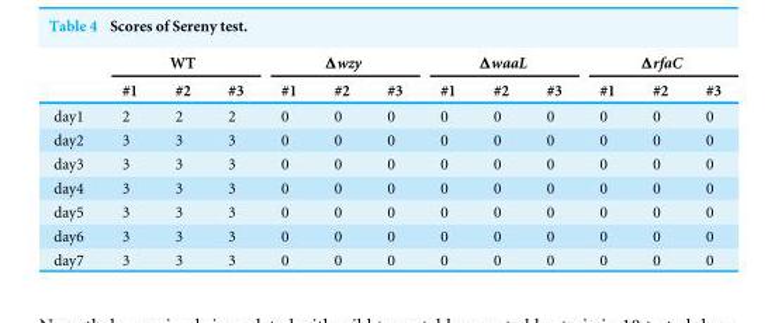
<table><thead><tr><td rowspan="2"></td><td colspan="3">WT</td><td colspan="3">Δwzy</td><td colspan="3">ΔwaaL</td><td colspan="3">ΔrfaC</td></tr><tr><td>#1</td><td>#2</td><td>#3</td><td>#1</td><td>#2</td><td>#3</td><td>#1</td><td>#2</td><td>#3</td><td>#1</td><td>#2</td><td>#3</td></tr></thead><tbody><tr><td>day1</td><td>2</td><td>2</td><td>2</td><td>0</td><td>0</td><td>0</td><td>0</td><td>0</td><td>0</td><td>0</td><td>0</td><td>0</td></tr><tr><td>day2</td><td>3</td><td>3</td><td>3</td><td>0</td><td>0</td><td>0</td><td>0</td><td>0</td><td>0</td><td>0</td><td>0</td><td>0</td></tr><tr><td>day3</td><td>3</td><td>3</td><td>3</td><td>0</td><td>0</td><td>0</td><td>0</td><td>0</td><td>0</td><td>0</td><td>0</td><td>0</td></tr><tr><td>day4</td><td>3</td><td>3</td><td>3</td><td>0</td><td>0</td><td>0</td><td>0</td><td>0</td><td>0</td><td>0</td><td>0</td><td>0</td></tr><tr><td>day5</td><td>3</td><td>3</td><td>3</td><td>0</td><td>0</td><td>0</td><td>0</td><td>0</td><td>0</td><td>0</td><td>0</td><td>0</td></tr><tr><td>day6</td><td>3</td><td>3</td><td>3</td><td>0</td><td>0</td><td>0</td><td>0</td><td>0</td><td>0</td><td>0</td><td>0</td><td>0</td></tr><tr><td>day7</td><td>3</td><td>3</td><td>3</td><td>0</td><td>0</td><td>0</td><td>0</td><td>0</td><td>0</td><td>0</td><td>0</td><td>0</td></tr></tbody></table>